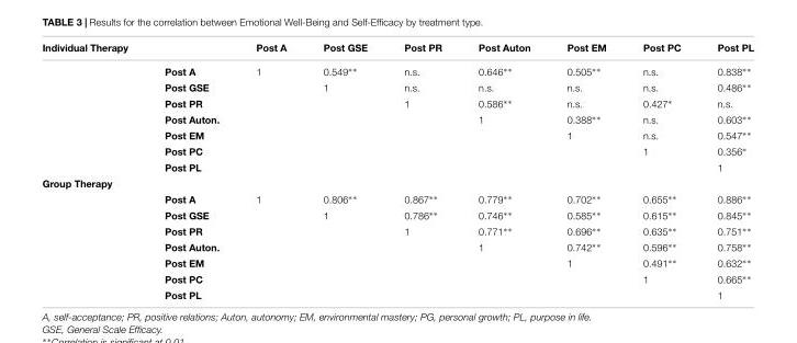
<table><thead><tr><td>Individual Therapy</td><td></td><td>Post A</td><td>Post GSE</td><td>Post PR</td><td>Post Auton</td><td>Post EM</td><td>Post PC</td><td>Post PL</td></tr></thead><tbody><tr><td></td><td>Post A</td><td>1</td><td>0.549∗∗</td><td>n.s.</td><td>0.646∗∗</td><td>0.505∗∗</td><td>n.s.</td><td>0.838∗∗</td></tr><tr><td></td><td>Post GSE</td><td></td><td>1</td><td>n.s.</td><td>n.s.</td><td>n.s.</td><td>n.s.</td><td>0.486∗∗</td></tr><tr><td></td><td>Post PR</td><td></td><td></td><td>1</td><td>0.586∗∗</td><td>n.s.</td><td>0.427∗</td><td>n.s.</td></tr><tr><td></td><td>Post Auton.</td><td></td><td></td><td></td><td>1</td><td>0.388∗∗</td><td>n.s.</td><td>0.603∗∗</td></tr><tr><td></td><td>Post EM</td><td></td><td></td><td></td><td></td><td>1</td><td>n.s.</td><td>0.547∗∗</td></tr><tr><td></td><td>Post PC</td><td></td><td></td><td></td><td></td><td></td><td>1</td><td>0.356∗</td></tr><tr><td></td><td>Post PL</td><td></td><td></td><td></td><td></td><td></td><td></td><td>1</td></tr><tr><td colspan="9">Group Therapy</td></tr><tr><td></td><td>Post A</td><td>1</td><td>0.806∗∗</td><td>0.867∗∗</td><td>0.779∗∗</td><td>0.702∗∗</td><td>0.655∗∗</td><td>0.886∗∗</td></tr><tr><td></td><td>Post GSE</td><td></td><td>1</td><td>0.786∗∗</td><td>0.746∗∗</td><td>0.585∗∗</td><td>0.615∗∗</td><td>0.845∗∗</td></tr><tr><td></td><td>Post PR</td><td></td><td></td><td>1</td><td>0.771∗∗</td><td>0.696∗∗</td><td>0.635∗∗</td><td>0.751∗∗</td></tr><tr><td></td><td>Post Auton.</td><td></td><td></td><td></td><td>1</td><td>0.742∗∗</td><td>0.596∗∗</td><td>0.758∗∗</td></tr><tr><td></td><td>Post EM</td><td></td><td></td><td></td><td></td><td>1</td><td>0.491∗∗</td><td>0.632∗∗</td></tr><tr><td></td><td>Post PC</td><td></td><td></td><td></td><td></td><td></td><td>1</td><td>0.665∗∗</td></tr><tr><td></td><td>Post PL</td><td></td><td></td><td></td><td></td><td></td><td></td><td>1</td></tr></tbody></table>